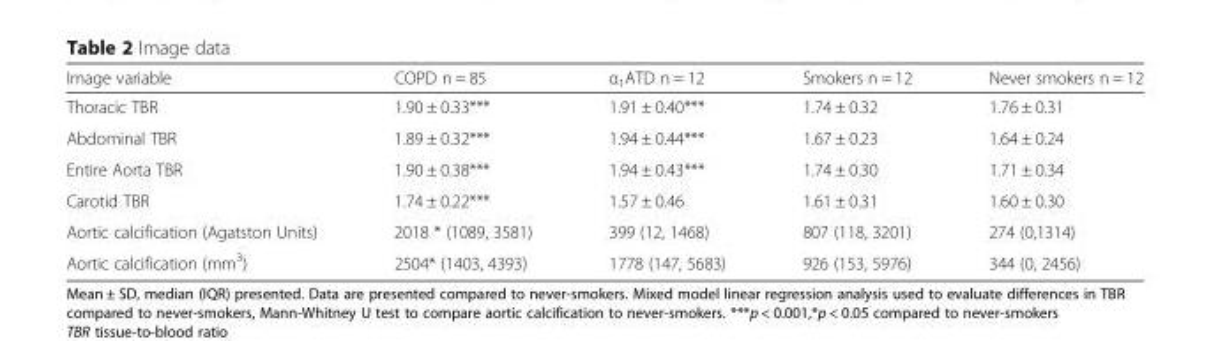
<table><thead><tr><td>Image variable</td><td>COPD n = 85</td><td>α<sub>1</sub>ATD n = 12</td><td>Smokers n = 12</td><td>Never smokers n = 12</td></tr></thead><tbody><tr><td>Thoracic TBR</td><td>1.90 ± 0.33***</td><td>1.91 ± 0.40***</td><td>1.74 ± 0.32</td><td>1.76 ± 0.31</td></tr><tr><td>Abdominal TBR</td><td>1.89 ± 0.32***</td><td>1.94 ± 0.44***</td><td>1.67 ± 0.23</td><td>1.64 ± 0.24</td></tr><tr><td>Entire Aorta TBR</td><td>1.90 ± 0.38***</td><td>1.94 ± 0.43***</td><td>1.74 ± 0.30</td><td>1.71 ± 0.34</td></tr><tr><td>Carotid TBR</td><td>1.74 ± 0.22***</td><td>1.57 ± 0.46</td><td>1.61 ± 0.31</td><td>1.60 ± 0.30</td></tr><tr><td>Aortic calcification (Agatston Units)</td><td>2018 * (1089, 3581)</td><td>399 (12, 1468)</td><td>807 (118, 3201)</td><td>274 (0,1314)</td></tr><tr><td>Aortic calcification (mm<sup>3</sup>)</td><td>2504* (1403, 4393)</td><td>1778 (147, 5683)</td><td>926 (153, 5976)</td><td>344 (0, 2456)</td></tr></tbody></table>